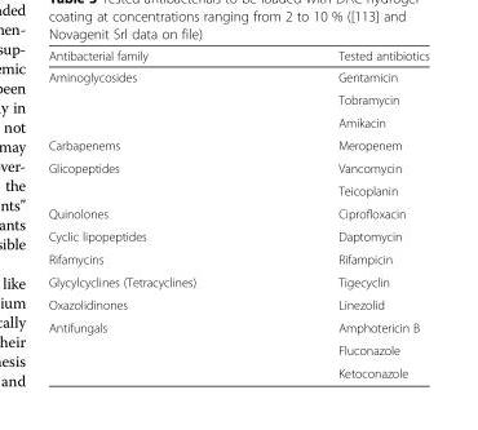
<table><thead><tr><td>Antibacterial family</td><td>Tested antibiotics</td></tr></thead><tbody><tr><td rowspan="3">Aminoglycosides</td><td>Gentamicin</td></tr><tr><td>Tobramycin</td></tr><tr><td>Amikacin</td></tr><tr><td>Carbapenems</td><td>Meropenem</td></tr><tr><td rowspan="2">Glicopeptides</td><td>Vancomycin</td></tr><tr><td>Teicoplanin</td></tr><tr><td>Quinolones</td><td>Ciprofloxacin</td></tr><tr><td>Cyclic lipopeptides</td><td>Daptomycin</td></tr><tr><td>Rifamycins</td><td>Rifampicin</td></tr><tr><td>Glycylcyclines (Tetracyclines)</td><td>Tigecyclin</td></tr><tr><td>Oxazolidinones</td><td>Linezolid</td></tr><tr><td rowspan="3">Antifungals</td><td>Amphotericin B</td></tr><tr><td>Fluconazole</td></tr><tr><td>Ketoconazole</td></tr></tbody></table>